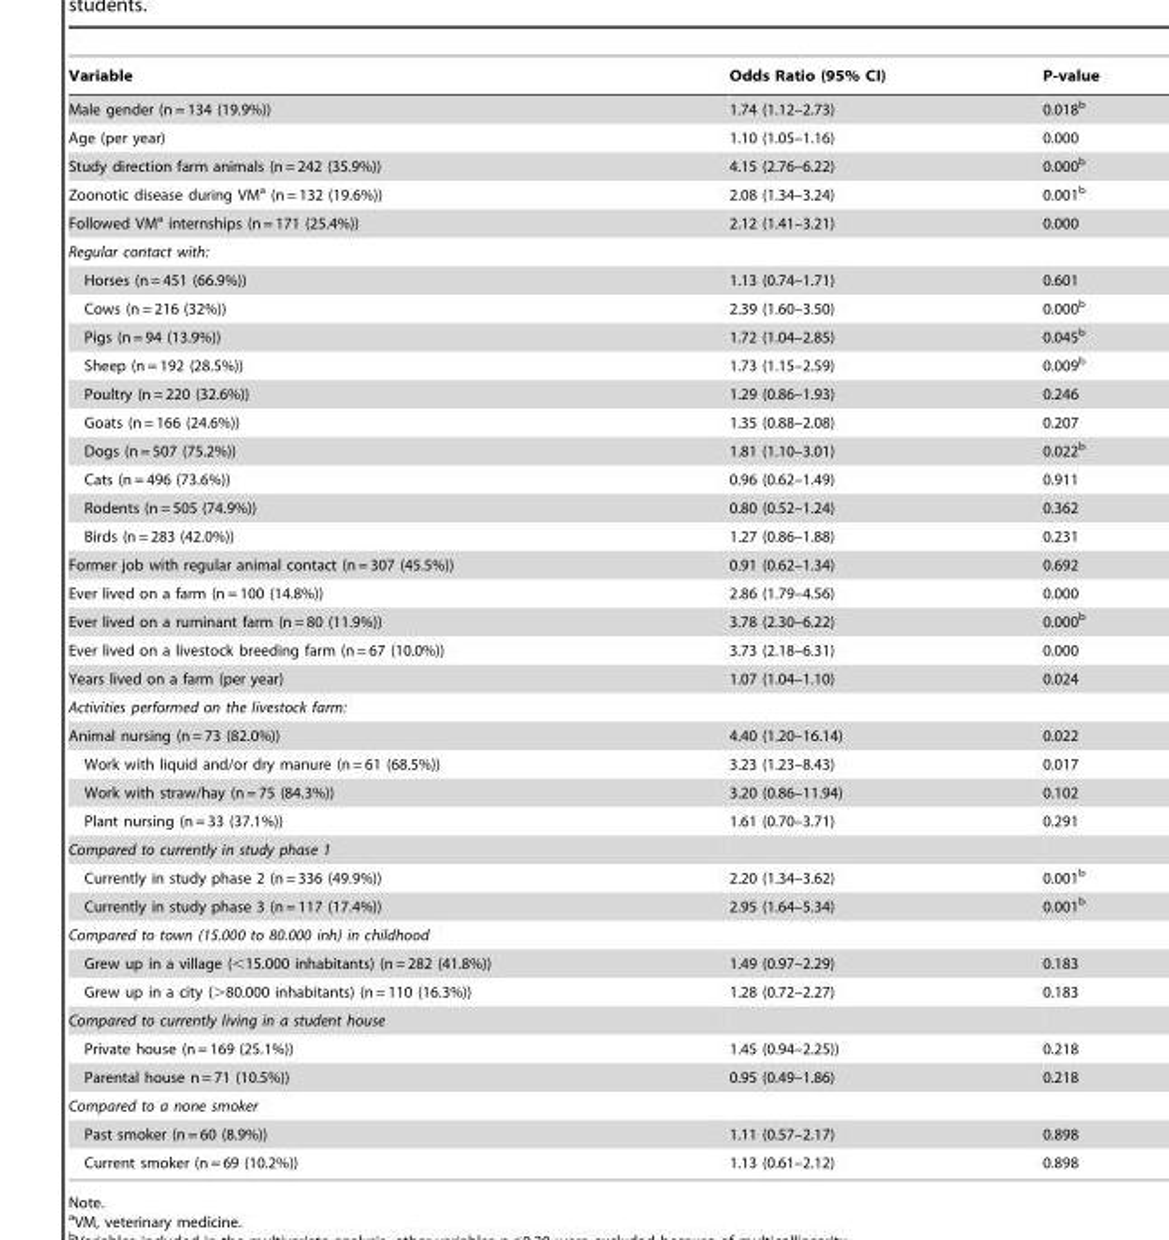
<table><thead><tr><td>Variable</td><td>Odds Ratio (95% CI)</td><td>P-value</td></tr></thead><tbody><tr><td>Male gender (n = 134 (19.9%))</td><td>1.74 (1.12–2.73)</td><td>0.018<sup>b</sup></td></tr><tr><td>Age (per year)</td><td>1.10 (1.05–1.16)</td><td>0.000</td></tr><tr><td>Study direction farm animals (n = 242 (35.9%))</td><td>4.15 (2.76–6.22)</td><td>0.000<sup>b</sup></td></tr><tr><td>Zoonotic disease during VM<sup>a</sup> (n = 132 (19.6%))</td><td>2.08 (1.34–3.24)</td><td>0.001<sup>b</sup></td></tr><tr><td>Followed VM<sup>a</sup> internships (n = 171 (25.4%))</td><td>2.12 (1.41–3.21)</td><td>0.000</td></tr><tr><td colspan="3">Regular contact with:</td></tr><tr><td>Horses (n = 451 (66.9%))</td><td>1.13 (0.74–1.71)</td><td>0.601</td></tr><tr><td>Cows (n = 216 (32%))</td><td>2.39 (1.60–3.50)</td><td>0.000<sup>b</sup></td></tr><tr><td>Pigs (n = 94 (13.9%))</td><td>1.72 (1.04–2.85)</td><td>0.045<sup>b</sup></td></tr><tr><td>Sheep (n = 192 (28.5%))</td><td>1.73 (1.15–2.59)</td><td>0.009<sup>b</sup></td></tr><tr><td>Poultry (n = 220 (32.6%))</td><td>1.29 (0.86–1.93)</td><td>0.246</td></tr><tr><td>Goats (n = 166 (24.6%))</td><td>1.35 (0.88–2.08)</td><td>0.207</td></tr><tr><td>Dogs (n = 507 (75.2%))</td><td>1.81 (1.10–3.01)</td><td>0.022<sup>b</sup></td></tr><tr><td>Cats (n = 496 (73.6%))</td><td>0.96 (0.62–1.49)</td><td>0.911</td></tr><tr><td>Rodents (n = 505 (74.9%))</td><td>0.80 (0.52–1.24)</td><td>0.362</td></tr><tr><td>Birds (n = 283 (42.0%))</td><td>1.27 (0.86–1.88)</td><td>0.231</td></tr><tr><td>Former job with regular animal contact (n = 307 (45.5%))</td><td>0.91 (0.62–1.34)</td><td>0.692</td></tr><tr><td>Ever lived on a farm (n = 100 (14.8%))</td><td>2.86 (1.79–4.56)</td><td>0.000</td></tr><tr><td>Ever lived on a ruminant farm (n = 80 (11.9%))</td><td>3.78 (2.30–6.22)</td><td>0.000<sup>b</sup></td></tr><tr><td>Ever lived on a livestock breeding farm (n = 67 (10.0%))</td><td>3.73 (2.18–6.31)</td><td>0.000</td></tr><tr><td>Years lived on a farm (per year)</td><td>1.07 (1.04–1.10)</td><td>0.024</td></tr><tr><td colspan="3">Activities performed on the livestock farm:</td></tr><tr><td>Animal nursing (n = 73 (82.0%))</td><td>4.40 (1.20–16.14)</td><td>0.022</td></tr><tr><td>Work with liquid and/or dry manure (n = 61 (68.5%))</td><td>3.23 (1.23–8.43)</td><td>0.017</td></tr><tr><td>Work with straw/hay (n = 75 (84.3%))</td><td>3.20 (0.86–11.94)</td><td>0.102</td></tr><tr><td>Plant nursing (n = 33 (37.1%))</td><td>1.61 (0.70–3.71)</td><td>0.291</td></tr><tr><td colspan="3">Compared to currently in study phase 1</td></tr><tr><td>Currently in study phase 2 (n = 336 (49.9%))</td><td>2.20 (1.34–3.62)</td><td>0.001<sup>b</sup></td></tr><tr><td>Currently in study phase 3 (n = 117 (17.4%))</td><td>2.95 (1.64–5.34)</td><td>0.001<sup>b</sup></td></tr><tr><td colspan="3">Compared to town (15.000 to 80.000 inh) in childhood</td></tr><tr><td>Grew up in a village (&lt;15.000 inhabitants) (n = 282 (41.8%))</td><td>1.49 (0.97–2.29)</td><td>0.183</td></tr><tr><td>Grew up in a city (&gt;80.000 inhabitants) (n = 110 (16.3%))</td><td>1.28 (0.72–2.27)</td><td>0.183</td></tr><tr><td colspan="3">Compared to currently living in a student house</td></tr><tr><td>Private house (n = 169 (25.1%))</td><td>1.45 (0.94–2.25))</td><td>0.218</td></tr><tr><td>Parental house n = 71 (10.5%))</td><td>0.95 (0.49–1.86)</td><td>0.218</td></tr><tr><td colspan="3">Compared to a none smoker</td></tr><tr><td>Past smoker (n = 60 (8.9%))</td><td>1.11 (0.57–2.17)</td><td>0.898</td></tr><tr><td>Current smoker (n = 69 (10.2%))</td><td>1.13 (0.61–2.12)</td><td>0.898</td></tr></tbody></table>